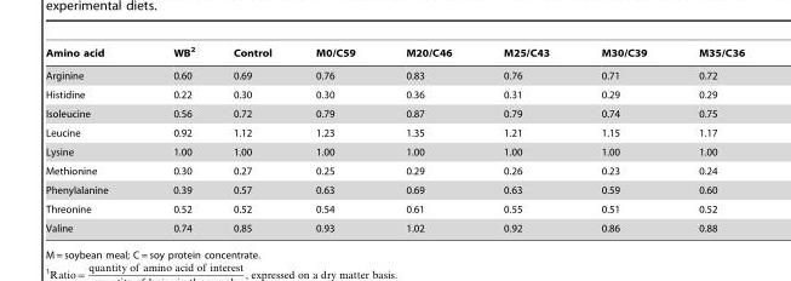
<table><thead><tr><td>Amino acid</td><td>WB<sup>2</sup></td><td>Control</td><td>M0/C59</td><td>M20/C46</td><td>M25/C43</td><td>M30/C39</td><td>M35/C36</td></tr></thead><tbody><tr><td>Arginine</td><td>0.60</td><td>0.69</td><td>0.76</td><td>0.83</td><td>0.76</td><td>0.71</td><td>0.72</td></tr><tr><td>Histidine</td><td>0.22</td><td>0.30</td><td>0.30</td><td>0.36</td><td>0.31</td><td>0.29</td><td>0.29</td></tr><tr><td>Isoleucine</td><td>0.56</td><td>0.72</td><td>0.79</td><td>0.87</td><td>0.79</td><td>0.74</td><td>0.75</td></tr><tr><td>Leucine</td><td>0.92</td><td>1.12</td><td>1.23</td><td>1.35</td><td>1.21</td><td>1.15</td><td>1.17</td></tr><tr><td>Lysine</td><td>1.00</td><td>1.00</td><td>1.00</td><td>1.00</td><td>1.00</td><td>1.00</td><td>1.00</td></tr><tr><td>Methionine</td><td>0.30</td><td>0.27</td><td>0.25</td><td>0.29</td><td>0.26</td><td>0.23</td><td>0.24</td></tr><tr><td>Phenylalanine</td><td>0.39</td><td>0.57</td><td>0.63</td><td>0.69</td><td>0.63</td><td>0.59</td><td>0.60</td></tr><tr><td>Threonine</td><td>0.52</td><td>0.52</td><td>0.54</td><td>0.61</td><td>0.55</td><td>0.51</td><td>0.52</td></tr><tr><td>Valine</td><td>0.74</td><td>0.85</td><td>0.93</td><td>1.02</td><td>0.92</td><td>0.86</td><td>0.88</td></tr></tbody></table>